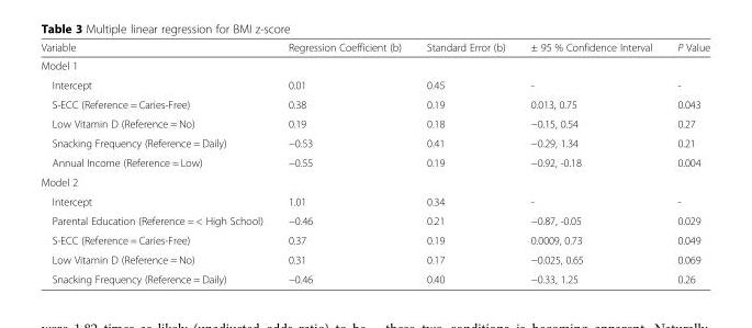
<table><thead><tr><td>Variable</td><td>Regression Coefficient (b)</td><td>Standard Error (b)</td><td>± 95 % Confidence Interval</td><td>P Value</td></tr></thead><tbody><tr><td colspan="5">Model 1</td></tr><tr><td>Intercept</td><td>0.01</td><td>0.45</td><td>-</td><td>-</td></tr><tr><td>S-ECC (Reference = Caries-Free)</td><td>0.38</td><td>0.19</td><td>0.013, 0.75</td><td>0.043</td></tr><tr><td>Low Vitamin D (Reference = No)</td><td>0.19</td><td>0.18</td><td>−0.15, 0.54</td><td>0.27</td></tr><tr><td>Snacking Frequency (Reference = Daily)</td><td>−0.53</td><td>0.41</td><td>−0.29, 1.34</td><td>0.21</td></tr><tr><td>Annual Income (Reference = Low)</td><td>−0.55</td><td>0.19</td><td>−0.92, -0.18</td><td>0.004</td></tr><tr><td colspan="5">Model 2</td></tr><tr><td>Intercept</td><td>1.01</td><td>0.34</td><td>-</td><td>-</td></tr><tr><td>Parental Education (Reference = &lt; High School)</td><td>−0.46</td><td>0.21</td><td>−0.87, -0.05</td><td>0.029</td></tr><tr><td>S-ECC (Reference = Caries-Free)</td><td>0.37</td><td>0.19</td><td>0.0009, 0.73</td><td>0.049</td></tr><tr><td>Low Vitamin D (Reference = No)</td><td>0.31</td><td>0.17</td><td>−0.025, 0.65</td><td>0.069</td></tr><tr><td>Snacking Frequency (Reference = Daily)</td><td>−0.46</td><td>0.40</td><td>−0.33, 1.25</td><td>0.26</td></tr></tbody></table>